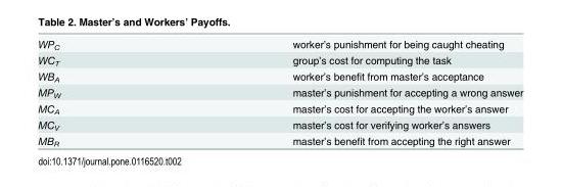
<table><tbody><tr><td>WP<sub>C</sub></td><td>worker’s punishment for being caught cheating</td></tr><tr><td>WC<sub>T</sub></td><td>group’s cost for computing the task</td></tr><tr><td>WB<sub>A</sub></td><td>worker’s benefit from master’s acceptance</td></tr><tr><td>MP<sub>W</sub></td><td>master’s punishment for accepting a wrong answer</td></tr><tr><td>MC<sub>A</sub></td><td>master’s cost for accepting the worker’s answer</td></tr><tr><td>MC<sub>V</sub></td><td>master’s cost for verifying worker’s answers</td></tr><tr><td>MB<sub>R</sub></td><td>master’s benefit from accepting the right answer</td></tr></tbody></table>